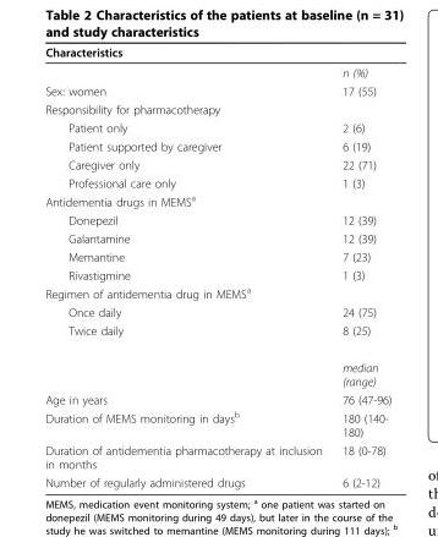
<table><thead><tr><td>Characteristics</td><td></td></tr></thead><tbody><tr><td></td><td>n (%)</td></tr><tr><td>Sex: women</td><td>17 (55)</td></tr><tr><td colspan="2">Responsibility for pharmacotherapy</td></tr><tr><td>Patient only</td><td>2 (6)</td></tr><tr><td>Patient supported by caregiver</td><td>6 (19)</td></tr><tr><td>Caregiver only</td><td>22 (71)</td></tr><tr><td>Professional care only</td><td>1 (3)</td></tr><tr><td colspan="2">Antidementia drugs in MEMS<sup>a</sup></td></tr><tr><td>Donepezil</td><td>12 (39)</td></tr><tr><td>Galantamine</td><td>12 (39)</td></tr><tr><td>Memantine</td><td>7 (23)</td></tr><tr><td>Rivastigmine</td><td>1 (3)</td></tr><tr><td colspan="2">Regimen of antidementia drug in MEMS<sup>a</sup></td></tr><tr><td>Once daily</td><td>24 (75)</td></tr><tr><td rowspan="2">Twice daily</td><td>8 (25)</td></tr><tr><td>median (range)</td></tr><tr><td>Age in years</td><td>76 (47-96)</td></tr><tr><td>Duration of MEMS monitoring in days<sup>b</sup></td><td>180 (140- 180)</td></tr><tr><td>Duration of antidementia pharmacotherapy at inclusion in months</td><td>18 (0-78)</td></tr><tr><td>Number of regularly administered drugs</td><td>6 (2-12)</td></tr></tbody></table>